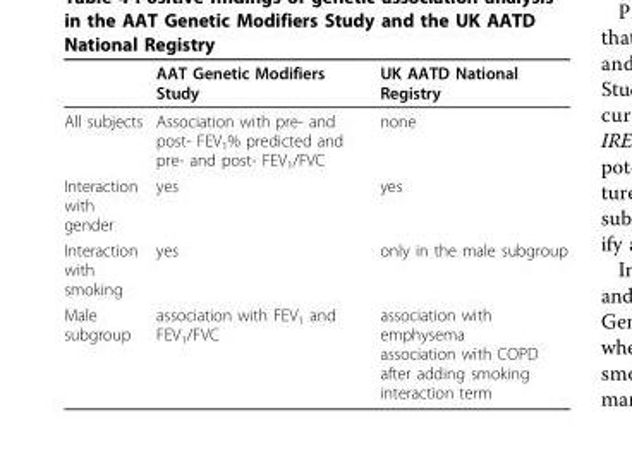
<table><thead><tr><td></td><td>AAT Genetic Modifiers Study</td><td>UK AATD National Registry</td></tr></thead><tbody><tr><td>All subjects</td><td>Association with pre- and post- FEV<sub>1</sub>% predicted and pre- and post- FEV<sub>1</sub>/FVC</td><td>none</td></tr><tr><td>Interaction with gender</td><td>yes</td><td>yes</td></tr><tr><td>Interaction with smoking</td><td>yes</td><td>only in the male subgroup</td></tr><tr><td>Male subgroup</td><td>association with FEV<sub>1</sub> and FEV<sub>1</sub>/FVC</td><td>association with emphysema association with COPD after adding smoking interaction term</td></tr></tbody></table>